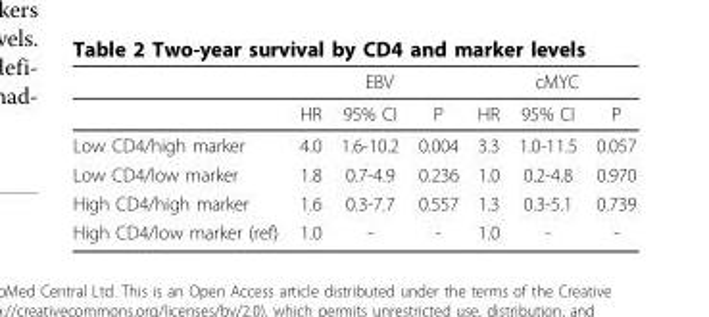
<table><thead><tr><td rowspan="2"></td><td colspan="3">EBV</td><td colspan="3">cMYC</td></tr><tr><td>HR</td><td>95% CI</td><td>P</td><td>HR</td><td>95% CI</td><td>P</td></tr></thead><tbody><tr><td>Low CD4/high marker</td><td>4.0</td><td>1.6-10.2</td><td>0.004</td><td>3.3</td><td>1.0-11.5</td><td>0.057</td></tr><tr><td>Low CD4/low marker</td><td>1.8</td><td>0.7-4.9</td><td>0.236</td><td>1.0</td><td>0.2-4.8</td><td>0.970</td></tr><tr><td>High CD4/high marker</td><td>1.6</td><td>0.3-7.7</td><td>0.557</td><td>1.3</td><td>0.3-5.1</td><td>0.739</td></tr><tr><td>High CD4/low marker (ref)</td><td>1.0</td><td>-</td><td>-</td><td>1.0</td><td>-</td><td>-</td></tr></tbody></table>